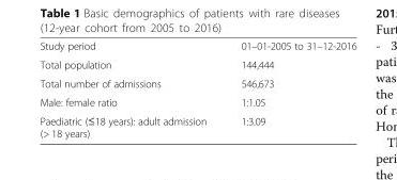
<table><tbody><tr><td>Study period</td><td>01–01-2005 to 31–12-2016</td></tr><tr><td>Total population</td><td>144,444</td></tr><tr><td>Total number of admissions</td><td>546,673</td></tr><tr><td>Male: female ratio</td><td>1:1.05</td></tr><tr><td>Paediatric (≤18 years): adult admission (&gt; 18 years)</td><td>1:3.09</td></tr></tbody></table>